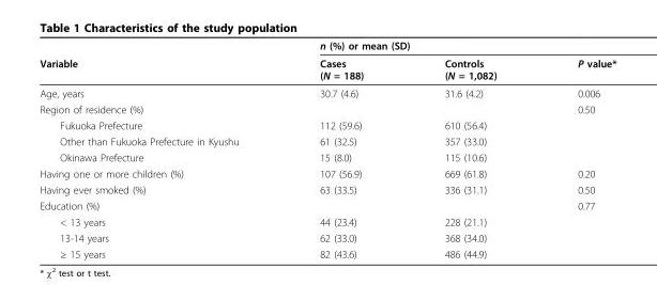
<table><thead><tr><td rowspan="2">Variable</td><td colspan="3">n (%) or mean (SD)</td></tr><tr><td>Cases (N = 188)</td><td>Controls (N = 1,082)</td><td>P value*</td></tr></thead><tbody><tr><td>Age, years</td><td>30.7 (4.6)</td><td>31.6 (4.2)</td><td>0.006</td></tr><tr><td>Region of residence (%)</td><td></td><td></td><td>0.50</td></tr><tr><td>Fukuoka Prefecture</td><td>112 (59.6)</td><td>610 (56.4)</td><td></td></tr><tr><td>Other than Fukuoka Prefecture in Kyushu</td><td>61 (32.5)</td><td>357 (33.0)</td><td></td></tr><tr><td>Okinawa Prefecture</td><td>15 (8.0)</td><td>115 (10.6)</td><td></td></tr><tr><td>Having one or more children (%)</td><td>107 (56.9)</td><td>669 (61.8)</td><td>0.20</td></tr><tr><td>Having ever smoked (%)</td><td>63 (33.5)</td><td>336 (31.1)</td><td>0.50</td></tr><tr><td>Education (%)</td><td></td><td></td><td>0.77</td></tr><tr><td>&lt; 13 years</td><td>44 (23.4)</td><td>228 (21.1)</td><td></td></tr><tr><td>13-14 years</td><td>62 (33.0)</td><td>368 (34.0)</td><td></td></tr><tr><td>≥ 15 years</td><td>82 (43.6)</td><td>486 (44.9)</td><td></td></tr></tbody></table>